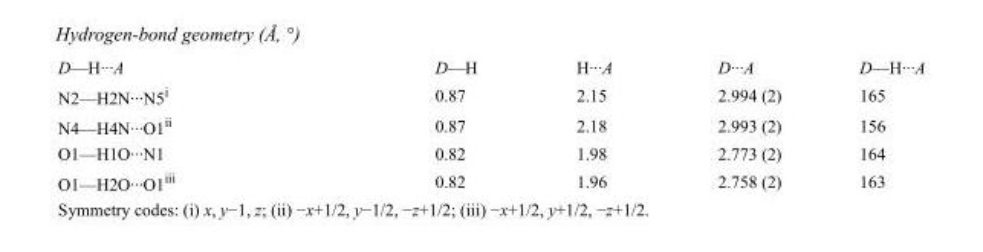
<table><tbody><tr><td>D—H···A</td><td>D—H</td><td>H···A</td><td>D···A</td><td>D—H···A</td></tr><tr><td>N2—H2N···N5<sup>i</sup></td><td>0.87</td><td>2.15</td><td>2.994 (2)</td><td>165</td></tr><tr><td>N4—H4N···O1<sup>ii</sup></td><td>0.87</td><td>2.18</td><td>2.993 (2)</td><td>156</td></tr><tr><td>O1—H1O···N1</td><td>0.82</td><td>1.98</td><td>2.773 (2)</td><td>164</td></tr><tr><td>O1—H2O···O1<sup>iii</sup></td><td>0.82</td><td>1.96</td><td>2.758 (2)</td><td>163</td></tr></tbody></table>